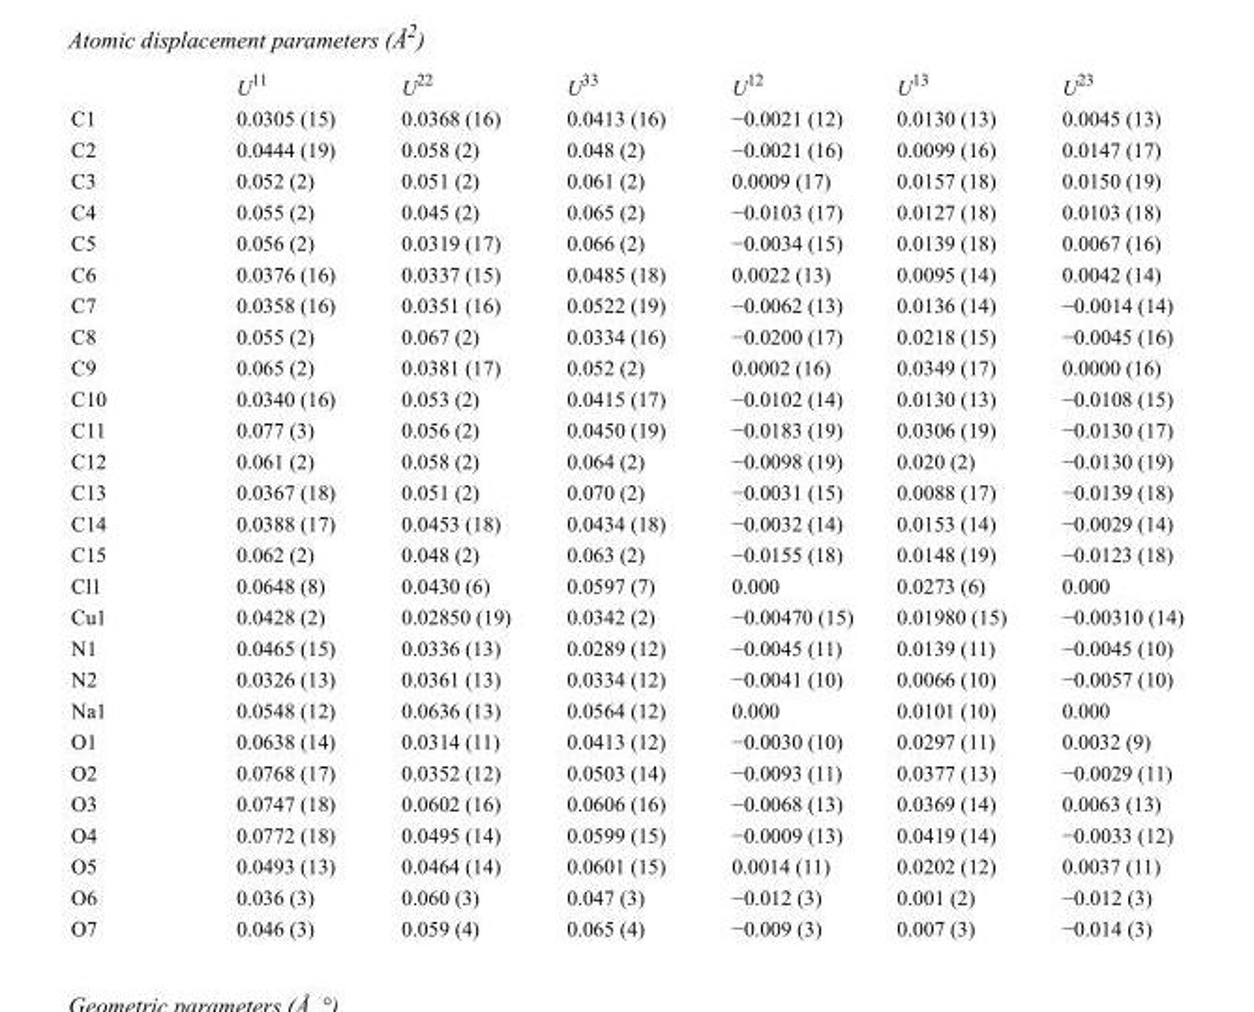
<table><thead><tr><td></td><td>U<sup>11</sup></td><td>U<sup>22</sup></td><td>U<sup>33</sup></td><td>U<sup>12</sup></td><td>U<sup>13</sup></td><td>U<sup>23</sup></td></tr></thead><tbody><tr><td>C1</td><td>0.0305 (15)</td><td>0.0368 (16)</td><td>0.0413 (16)</td><td>−0.0021 (12)</td><td>0.0130 (13)</td><td>0.0045 (13)</td></tr><tr><td>C2</td><td>0.0444 (19)</td><td>0.058 (2)</td><td>0.048 (2)</td><td>−0.0021 (16)</td><td>0.0099 (16)</td><td>0.0147 (17)</td></tr><tr><td>C3</td><td>0.052 (2)</td><td>0.051 (2)</td><td>0.061 (2)</td><td>0.0009 (17)</td><td>0.0157 (18)</td><td>0.0150 (19)</td></tr><tr><td>C4</td><td>0.055 (2)</td><td>0.045 (2)</td><td>0.065 (2)</td><td>−0.0103 (17)</td><td>0.0127 (18)</td><td>0.0103 (18)</td></tr><tr><td>C5</td><td>0.056 (2)</td><td>0.0319 (17)</td><td>0.066 (2)</td><td>−0.0034 (15)</td><td>0.0139 (18)</td><td>0.0067 (16)</td></tr><tr><td>C6</td><td>0.0376 (16)</td><td>0.0337 (15)</td><td>0.0485 (18)</td><td>0.0022 (13)</td><td>0.0095 (14)</td><td>0.0042 (14)</td></tr><tr><td>C7</td><td>0.0358 (16)</td><td>0.0351 (16)</td><td>0.0522 (19)</td><td>−0.0062 (13)</td><td>0.0136 (14)</td><td>−0.0014 (14)</td></tr><tr><td>C8</td><td>0.055 (2)</td><td>0.067 (2)</td><td>0.0334 (16)</td><td>−0.0200 (17)</td><td>0.0218 (15)</td><td>−0.0045 (16)</td></tr><tr><td>C9</td><td>0.065 (2)</td><td>0.0381 (17)</td><td>0.052 (2)</td><td>0.0002 (16)</td><td>0.0349 (17)</td><td>0.0000 (16)</td></tr><tr><td>C10</td><td>0.0340 (16)</td><td>0.053 (2)</td><td>0.0415 (17)</td><td>−0.0102 (14)</td><td>0.0130 (13)</td><td>−0.0108 (15)</td></tr><tr><td>C11</td><td>0.077 (3)</td><td>0.056 (2)</td><td>0.0450 (19)</td><td>−0.0183 (19)</td><td>0.0306 (19)</td><td>−0.0130 (17)</td></tr><tr><td>C12</td><td>0.061 (2)</td><td>0.058 (2)</td><td>0.064 (2)</td><td>−0.0098 (19)</td><td>0.020 (2)</td><td>−0.0130 (19)</td></tr><tr><td>C13</td><td>0.0367 (18)</td><td>0.051 (2)</td><td>0.070 (2)</td><td>−0.0031 (15)</td><td>0.0088 (17)</td><td>−0.0139 (18)</td></tr><tr><td>C14</td><td>0.0388 (17)</td><td>0.0453 (18)</td><td>0.0434 (18)</td><td>−0.0032 (14)</td><td>0.0153 (14)</td><td>−0.0029 (14)</td></tr><tr><td>C15</td><td>0.062 (2)</td><td>0.048 (2)</td><td>0.063 (2)</td><td>−0.0155 (18)</td><td>0.0148 (19)</td><td>−0.0123 (18)</td></tr><tr><td>Cl1</td><td>0.0648 (8)</td><td>0.0430 (6)</td><td>0.0597 (7)</td><td>0.000</td><td>0.0273 (6)</td><td>0.000</td></tr><tr><td>Cu1</td><td>0.0428 (2)</td><td>0.02850 (19)</td><td>0.0342 (2)</td><td>−0.00470 (15)</td><td>0.01980 (15)</td><td>−0.00310 (14)</td></tr><tr><td>N1</td><td>0.0465 (15)</td><td>0.0336 (13)</td><td>0.0289 (12)</td><td>−0.0045 (11)</td><td>0.0139 (11)</td><td>−0.0045 (10)</td></tr><tr><td>N2</td><td>0.0326 (13)</td><td>0.0361 (13)</td><td>0.0334 (12)</td><td>−0.0041 (10)</td><td>0.0066 (10)</td><td>−0.0057 (10)</td></tr><tr><td>Na1</td><td>0.0548 (12)</td><td>0.0636 (13)</td><td>0.0564 (12)</td><td>0.000</td><td>0.0101 (10)</td><td>0.000</td></tr><tr><td>O1</td><td>0.0638 (14)</td><td>0.0314 (11)</td><td>0.0413 (12)</td><td>−0.0030 (10)</td><td>0.0297 (11)</td><td>0.0032 (9)</td></tr><tr><td>O2</td><td>0.0768 (17)</td><td>0.0352 (12)</td><td>0.0503 (14)</td><td>−0.0093 (11)</td><td>0.0377 (13)</td><td>−0.0029 (11)</td></tr><tr><td>O3</td><td>0.0747 (18)</td><td>0.0602 (16)</td><td>0.0606 (16)</td><td>−0.0068 (13)</td><td>0.0369 (14)</td><td>0.0063 (13)</td></tr><tr><td>O4</td><td>0.0772 (18)</td><td>0.0495 (14)</td><td>0.0599 (15)</td><td>−0.0009 (13)</td><td>0.0419 (14)</td><td>−0.0033 (12)</td></tr><tr><td>O5</td><td>0.0493 (13)</td><td>0.0464 (14)</td><td>0.0601 (15)</td><td>0.0014 (11)</td><td>0.0202 (12)</td><td>0.0037 (11)</td></tr><tr><td>O6</td><td>0.036 (3)</td><td>0.060 (3)</td><td>0.047 (3)</td><td>−0.012 (3)</td><td>0.001 (2)</td><td>−0.012 (3)</td></tr><tr><td>O7</td><td>0.046 (3)</td><td>0.059 (4)</td><td>0.065 (4)</td><td>−0.009 (3)</td><td>0.007 (3)</td><td>−0.014 (3)</td></tr></tbody></table>